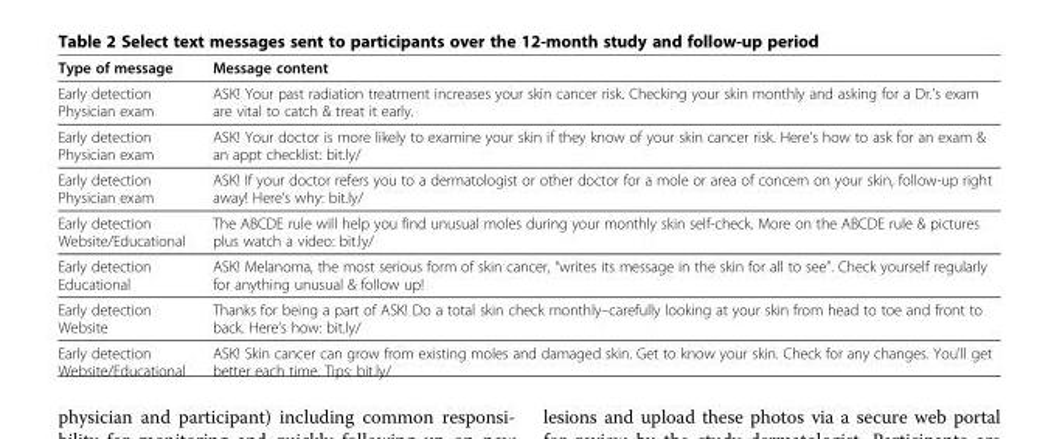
<table><thead><tr><td>Type of message</td><td>Message content</td></tr></thead><tbody><tr><td>Early detection Physician exam</td><td>ASK! Your past radiation treatment increases your skin cancer risk. Checking your skin monthly and asking for a Dr.’s exam are vital to catch &amp; treat it early.</td></tr><tr><td>Early detection Physician exam</td><td>ASK! Your doctor is more likely to examine your skin if they know of your skin cancer risk. Here’s how to ask for an exam &amp; an appt checklist: bit.ly/</td></tr><tr><td>Early detection Physician exam</td><td>ASK! If your doctor refers you to a dermatologist or other doctor for a mole or area of concern on your skin, follow-up right away! Here’s why: bit.ly/</td></tr><tr><td>Early detection Website/Educational</td><td>The ABCDE rule will help you find unusual moles during your monthly skin self-check. More on the ABCDE rule &amp; pictures plus watch a video: bit.ly/</td></tr><tr><td>Early detection Educational</td><td>ASK! Melanoma, the most serious form of skin cancer, “writes its message in the skin for all to see”. Check yourself regularly for anything unusual &amp; follow up!</td></tr><tr><td>Early detection Website</td><td>Thanks for being a part of ASK! Do a total skin check monthly–carefully looking at your skin from head to toe and front to back. Here’s how: bit.ly/</td></tr><tr><td>Early detection Website/Educational</td><td>ASK! Skin cancer can grow from existing moles and damaged skin. Get to know your skin. Check for any changes. You’ll get better each time. Tips: bit.ly/</td></tr></tbody></table>